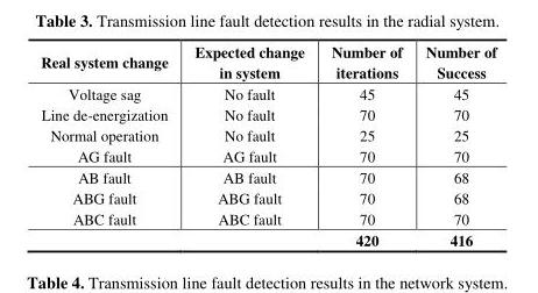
<table><thead><tr><td>Real system change</td><td>Expected change in system</td><td>Number of iterations</td><td>Number of Success</td></tr></thead><tbody><tr><td>Voltage sag</td><td>No fault</td><td>45</td><td>45</td></tr><tr><td>Line de-energization</td><td>No fault</td><td>70</td><td>70</td></tr><tr><td>Normal operation</td><td>No fault</td><td>25</td><td>25</td></tr><tr><td>AG fault</td><td>AG fault</td><td>70</td><td>70</td></tr><tr><td>AB fault</td><td>AB fault</td><td>70</td><td>68</td></tr><tr><td>ABG fault</td><td>ABG fault</td><td>70</td><td>68</td></tr><tr><td rowspan="2">ABC fault</td><td>ABC fault</td><td>70</td><td>70</td></tr><tr><td></td><td>420</td><td>416</td></tr></tbody></table>